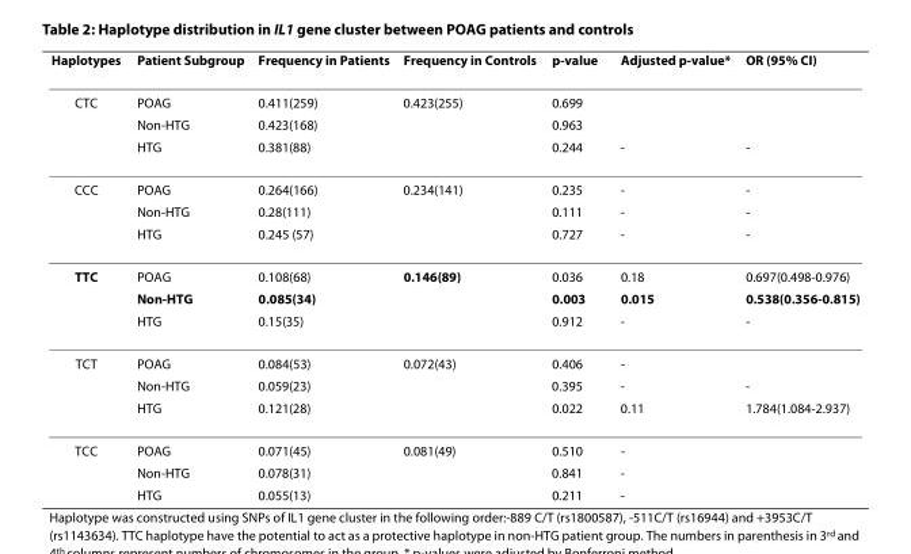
<table><thead><tr><td>Haplotypes</td><td>Patient Subgroup</td><td>Frequency in Patients</td><td>Frequency in Controls</td><td>p-value</td><td>Adjusted p-value*</td><td>OR (95% CI)</td></tr></thead><tbody><tr><td rowspan="3">CTC</td><td>POAG</td><td>0.411(259)</td><td>0.423(255)</td><td>0.699</td><td></td><td></td></tr><tr><td>Non-HTG</td><td>0.423(168)</td><td></td><td>0.963</td><td></td><td></td></tr><tr><td>HTG</td><td>0.381(88)</td><td></td><td>0.244</td><td>-</td><td>-</td></tr><tr><td rowspan="3">CCC</td><td>POAG</td><td>0.264(166)</td><td>0.234(141)</td><td>0.235</td><td>-</td><td>-</td></tr><tr><td>Non-HTG</td><td>0.28(111)</td><td></td><td>0.111</td><td>-</td><td>-</td></tr><tr><td>HTG</td><td>0.245 (57)</td><td></td><td>0.727</td><td>-</td><td>-</td></tr><tr><td rowspan="3">TTC</td><td>POAG</td><td>0.108(68)</td><td>0.146(89)</td><td>0.036</td><td>0.18</td><td>0.697(0.498-0.976)</td></tr><tr><td>Non-HTG</td><td>0.085(34)</td><td></td><td>0.003</td><td>0.015</td><td>0.538(0.356-0.815)</td></tr><tr><td>HTG</td><td>0.15(35)</td><td></td><td>0.912</td><td>-</td><td>-</td></tr><tr><td rowspan="3">TCT</td><td>POAG</td><td>0.084(53)</td><td>0.072(43)</td><td>0.406</td><td>-</td><td></td></tr><tr><td>Non-HTG</td><td>0.059(23)</td><td></td><td>0.395</td><td>-</td><td>-</td></tr><tr><td>HTG</td><td>0.121(28)</td><td></td><td>0.022</td><td>0.11</td><td>1.784(1.084-2.937)</td></tr><tr><td rowspan="3">TCC</td><td>POAG</td><td>0.071(45)</td><td>0.081(49)</td><td>0.510</td><td>-</td><td></td></tr><tr><td>Non-HTG</td><td>0.078(31)</td><td></td><td>0.841</td><td>-</td><td></td></tr><tr><td>HTG</td><td>0.055(13)</td><td></td><td>0.211</td><td>-</td><td></td></tr></tbody></table>